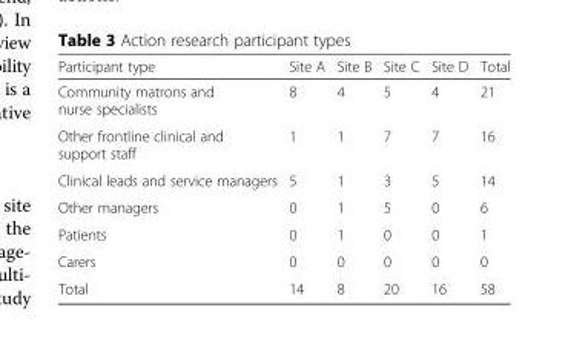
<table><thead><tr><td>Participant type</td><td>Site A</td><td>Site B</td><td>Site C</td><td>Site D</td><td>Total</td></tr></thead><tbody><tr><td>Community matrons and nurse specialists</td><td>8</td><td>4</td><td>5</td><td>4</td><td>21</td></tr><tr><td>Other frontline clinical and support staff</td><td>1</td><td>1</td><td>7</td><td>7</td><td>16</td></tr><tr><td>Clinical leads and service managers</td><td>5</td><td>1</td><td>3</td><td>5</td><td>14</td></tr><tr><td>Other managers</td><td>0</td><td>1</td><td>5</td><td>0</td><td>6</td></tr><tr><td>Patients</td><td>0</td><td>1</td><td>0</td><td>0</td><td>1</td></tr><tr><td>Carers</td><td>0</td><td>0</td><td>0</td><td>0</td><td>0</td></tr><tr><td>Total</td><td>14</td><td>8</td><td>20</td><td>16</td><td>58</td></tr></tbody></table>